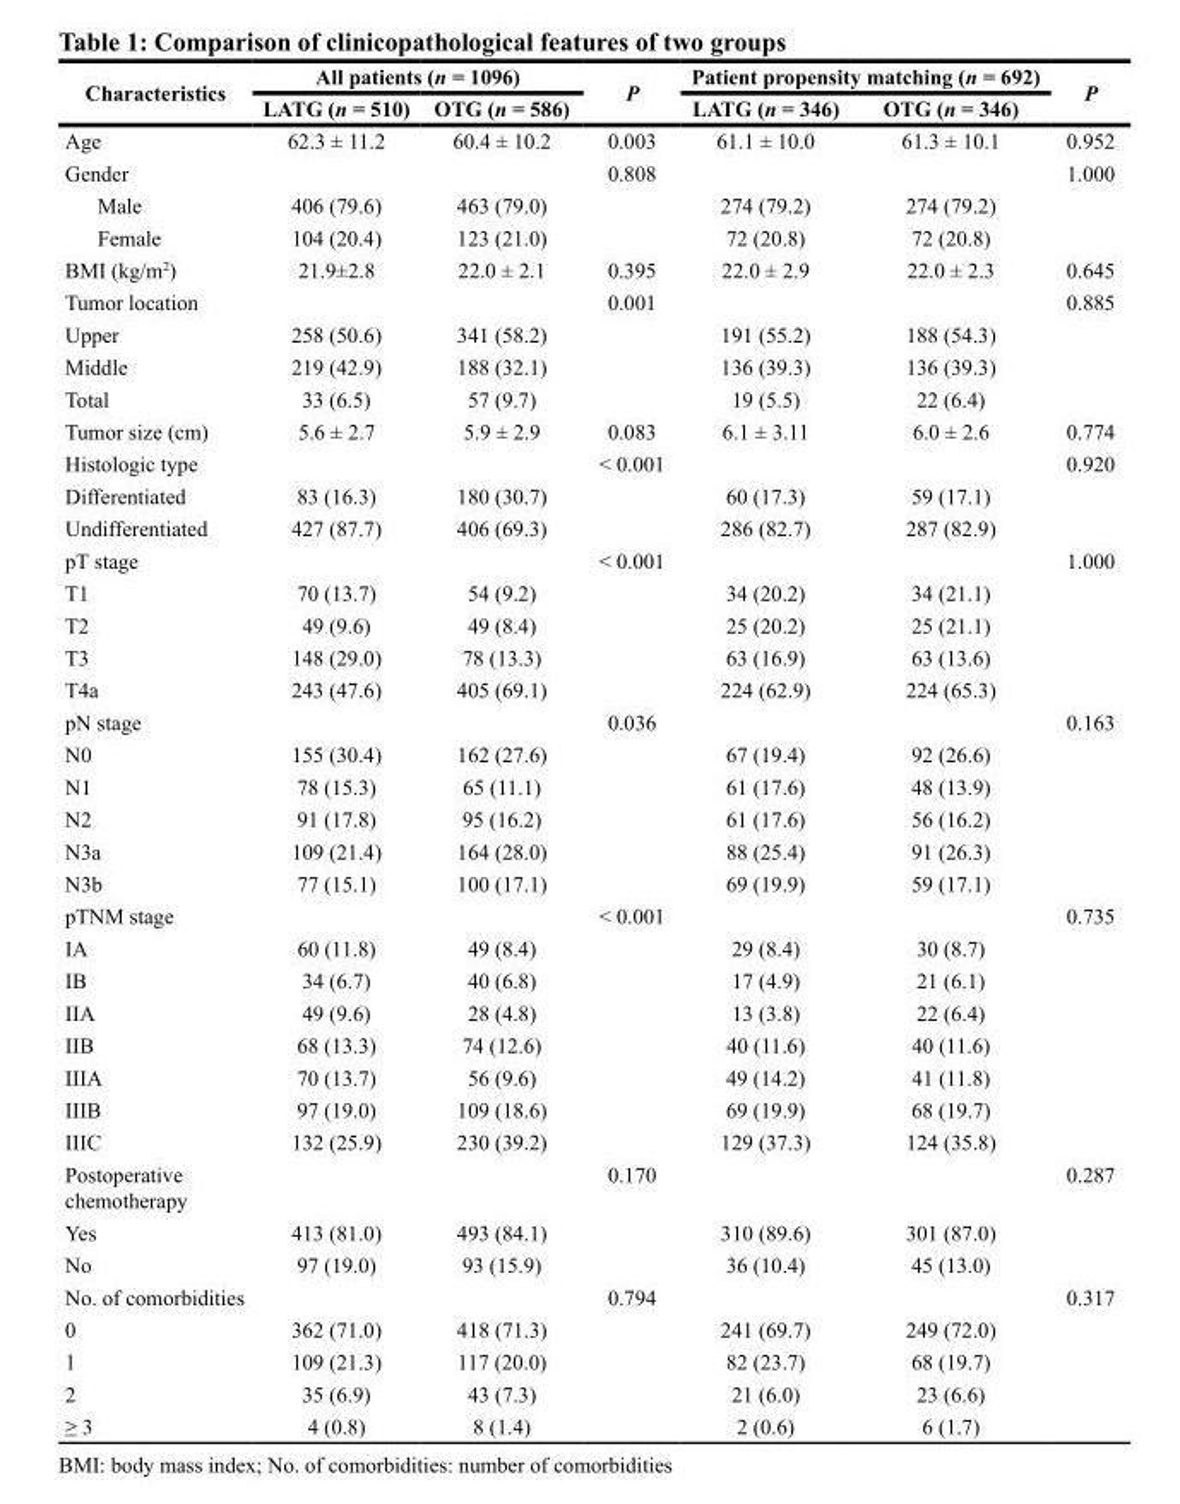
<table><thead><tr><td rowspan="2">Characteristics</td><td colspan="2">All patients (n = 1096)</td><td rowspan="2">P</td><td colspan="2">Patient propensity matching (n = 692)</td><td rowspan="2">P</td></tr><tr><td>LATG (n = 510)</td><td>OTG (n = 586)</td><td>LATG (n = 346)</td><td>OTG (n = 346)</td></tr></thead><tbody><tr><td>Age</td><td>62.3 ± 11.2</td><td>60.4 ± 10.2</td><td>0.003</td><td>61.1 ± 10.0</td><td>61.3 ± 10.1</td><td>0.952</td></tr><tr><td>Gender</td><td></td><td></td><td>0.808</td><td></td><td></td><td>1.000</td></tr><tr><td>Male</td><td>406 (79.6)</td><td>463 (79.0)</td><td></td><td>274 (79.2)</td><td>274 (79.2)</td><td></td></tr><tr><td>Female</td><td>104 (20.4)</td><td>123 (21.0)</td><td></td><td>72 (20.8)</td><td>72 (20.8)</td><td></td></tr><tr><td>BMI (kg/m<sup>2</sup>)</td><td>21.9±2.8</td><td>22.0 ± 2.1</td><td>0.395</td><td>22.0 ± 2.9</td><td>22.0 ± 2.3</td><td>0.645</td></tr><tr><td>Tumor location</td><td></td><td></td><td>0.001</td><td></td><td></td><td>0.885</td></tr><tr><td>Upper</td><td>258 (50.6)</td><td>341 (58.2)</td><td></td><td>191 (55.2)</td><td>188 (54.3)</td><td></td></tr><tr><td>Middle</td><td>219 (42.9)</td><td>188 (32.1)</td><td></td><td>136 (39.3)</td><td>136 (39.3)</td><td></td></tr><tr><td>Total</td><td>33 (6.5)</td><td>57 (9.7)</td><td></td><td>19 (5.5)</td><td>22 (6.4)</td><td></td></tr><tr><td>Tumor size (cm)</td><td>5.6 ± 2.7</td><td>5.9 ± 2.9</td><td>0.083</td><td>6.1 ± 3.11</td><td>6.0 ± 2.6</td><td>0.774</td></tr><tr><td>Histologic type</td><td></td><td></td><td>&lt; 0.001</td><td></td><td></td><td>0.920</td></tr><tr><td>Differentiated</td><td>83 (16.3)</td><td>180 (30.7)</td><td></td><td>60 (17.3)</td><td>59 (17.1)</td><td></td></tr><tr><td>Undifferentiated</td><td>427 (87.7)</td><td>406 (69.3)</td><td></td><td>286 (82.7)</td><td>287 (82.9)</td><td></td></tr><tr><td>pT stage</td><td></td><td></td><td>&lt; 0.001</td><td></td><td></td><td>1.000</td></tr><tr><td>T1</td><td>70 (13.7)</td><td>54 (9.2)</td><td></td><td>34 (20.2)</td><td>34 (21.1)</td><td></td></tr><tr><td>T2</td><td>49 (9.6)</td><td>49 (8.4)</td><td></td><td>25 (20.2)</td><td>25 (21.1)</td><td></td></tr><tr><td>T3</td><td>148 (29.0)</td><td>78 (13.3)</td><td></td><td>63 (16.9)</td><td>63 (13.6)</td><td></td></tr><tr><td>T4a</td><td>243 (47.6)</td><td>405 (69.1)</td><td></td><td>224 (62.9)</td><td>224 (65.3)</td><td></td></tr><tr><td>pN stage</td><td></td><td></td><td>0.036</td><td></td><td></td><td>0.163</td></tr><tr><td>N0</td><td>155 (30.4)</td><td>162 (27.6)</td><td></td><td>67 (19.4)</td><td>92 (26.6)</td><td></td></tr><tr><td>N1</td><td>78 (15.3)</td><td>65 (11.1)</td><td></td><td>61 (17.6)</td><td>48 (13.9)</td><td></td></tr><tr><td>N2</td><td>91 (17.8)</td><td>95 (16.2)</td><td></td><td>61 (17.6)</td><td>56 (16.2)</td><td></td></tr><tr><td>N3a</td><td>109 (21.4)</td><td>164 (28.0)</td><td></td><td>88 (25.4)</td><td>91 (26.3)</td><td></td></tr><tr><td>N3b</td><td>77 (15.1)</td><td>100 (17.1)</td><td></td><td>69 (19.9)</td><td>59 (17.1)</td><td></td></tr><tr><td>pTNM stage</td><td></td><td></td><td>&lt; 0.001</td><td></td><td></td><td>0.735</td></tr><tr><td>IA</td><td>60 (11.8)</td><td>49 (8.4)</td><td></td><td>29 (8.4)</td><td>30 (8.7)</td><td></td></tr><tr><td>IB</td><td>34 (6.7)</td><td>40 (6.8)</td><td></td><td>17 (4.9)</td><td>21 (6.1)</td><td></td></tr><tr><td>IIA</td><td>49 (9.6)</td><td>28 (4.8)</td><td></td><td>13 (3.8)</td><td>22 (6.4)</td><td></td></tr><tr><td>IIB</td><td>68 (13.3)</td><td>74 (12.6)</td><td></td><td>40 (11.6)</td><td>40 (11.6)</td><td></td></tr><tr><td>IIIA</td><td>70 (13.7)</td><td>56 (9.6)</td><td></td><td>49 (14.2)</td><td>41 (11.8)</td><td></td></tr><tr><td>IIIB</td><td>97 (19.0)</td><td>109 (18.6)</td><td></td><td>69 (19.9)</td><td>68 (19.7)</td><td></td></tr><tr><td>IIIC</td><td>132 (25.9)</td><td>230 (39.2)</td><td></td><td>129 (37.3)</td><td>124 (35.8)</td><td></td></tr><tr><td>Postoperative chemotherapy</td><td></td><td></td><td>0.170</td><td></td><td></td><td>0.287</td></tr><tr><td>Yes</td><td>413 (81.0)</td><td>493 (84.1)</td><td></td><td>310 (89.6)</td><td>301 (87.0)</td><td></td></tr><tr><td>No</td><td>97 (19.0)</td><td>93 (15.9)</td><td></td><td>36 (10.4)</td><td>45 (13.0)</td><td></td></tr><tr><td>No. of comorbidities</td><td></td><td></td><td>0.794</td><td></td><td></td><td>0.317</td></tr><tr><td>0</td><td>362 (71.0)</td><td>418 (71.3)</td><td></td><td>241 (69.7)</td><td>249 (72.0)</td><td></td></tr><tr><td>1</td><td>109 (21.3)</td><td>117 (20.0)</td><td></td><td>82 (23.7)</td><td>68 (19.7)</td><td></td></tr><tr><td>2</td><td>35 (6.9)</td><td>43 (7.3)</td><td></td><td>21 (6.0)</td><td>23 (6.6)</td><td></td></tr><tr><td>≥ 3</td><td>4 (0.8)</td><td>8 (1.4)</td><td></td><td>2 (0.6)</td><td>6 (1.7)</td><td></td></tr></tbody></table>